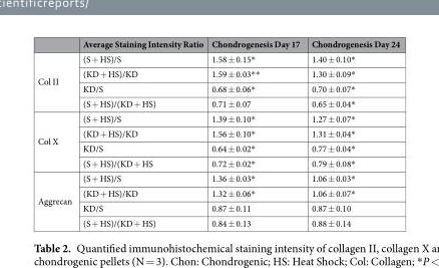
<table><thead><tr><td></td><td>Average Staining Intensity Ratio</td><td>Chondrogenesis Day 17</td><td>Chondrogenesis Day 24</td></tr></thead><tbody><tr><td rowspan="4">Col II</td><td>(S + HS)/S</td><td>1.58 ± 0.15*</td><td>1.40 ± 0.10*</td></tr><tr><td>(KD + HS)/KD</td><td>1.59 ± 0.03**</td><td>1.30 ± 0.09*</td></tr><tr><td>KD/S</td><td>0.68 ± 0.06*</td><td>0.70 ± 0.07*</td></tr><tr><td>(S + HS)/(KD + HS)</td><td>0.71 ± 0.07</td><td>0.65 ± 0.04*</td></tr><tr><td rowspan="4">Col X</td><td>(S + HS)/S</td><td>1.39 ± 0.10*</td><td>1.27 ± 0.07*</td></tr><tr><td>(KD + HS)/KD</td><td>1.56 ± 0.10*</td><td>1.31 ± 0.04*</td></tr><tr><td>KD/S</td><td>0.64 ± 0.02*</td><td>0.77 ± 0.04*</td></tr><tr><td>(S + HS)/(KD + HS</td><td>0.72 ± 0.02*</td><td>0.79 ± 0.08*</td></tr><tr><td rowspan="4">Aggrecan</td><td>(S + HS)/S</td><td>1.36 ± 0.03*</td><td>1.06 ± 0.03*</td></tr><tr><td>(KD + HS)/KD</td><td>1.32 ± 0.06*</td><td>1.06 ± 0.07*</td></tr><tr><td>KD/S</td><td>0.87 ± 0.11</td><td>0.87 ± 0.10</td></tr><tr><td>(S + HS)/(KD + HS)</td><td>0.84 ± 0.13</td><td>0.88 ± 0.14</td></tr></tbody></table>